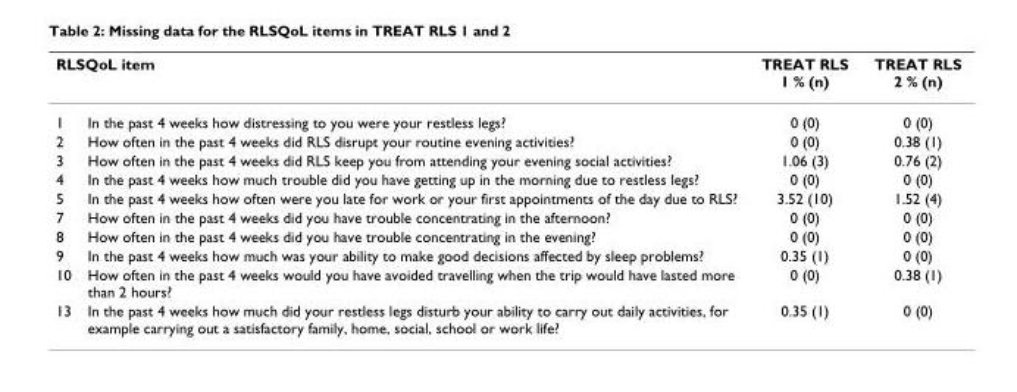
<table><thead><tr><td colspan="2">RLSQoL item</td><td rowspan="2">TREAT RLS 1 % (n) 0 (0)</td><td rowspan="2">TREAT RLS 2 % (n) 0 (0)</td></tr><tr><td>1</td><td>In the past 4 weeks how distressing to you were your restless legs?</td></tr></thead><tbody><tr><td>2</td><td>How often in the past 4 weeks did RLS disrupt your routine evening activities?</td><td>0 (0)</td><td>0.38 (1)</td></tr><tr><td>3</td><td>How often in the past 4 weeks did RLS keep you from attending your evening social activities?</td><td>1.06 (3)</td><td>0.76 (2)</td></tr><tr><td>4</td><td>In the past 4 weeks how much trouble did you have getting up in the morning due to restless legs?</td><td>0 (0)</td><td>0 (0)</td></tr><tr><td>5</td><td>In the past 4 weeks how often were you late for work or your first appointments of the day due to RLS?</td><td>3.52 (10)</td><td>1.52 (4)</td></tr><tr><td>7</td><td>How often in the past 4 weeks did you have trouble concentrating in the afternoon?</td><td>0 (0)</td><td>0 (0)</td></tr><tr><td>8</td><td>How often in the past 4 weeks did you have trouble concentrating in the evening?</td><td>0 (0)</td><td>0 (0)</td></tr><tr><td>9</td><td>In the past 4 weeks how much was your ability to make good decisions affected by sleep problems?</td><td>0.35 (1)</td><td>0 (0)</td></tr><tr><td>10</td><td>How often in the past 4 weeks would you have avoided travelling when the trip would have lasted more than 2 hours?</td><td>0 (0)</td><td>0.38 (1)</td></tr><tr><td>13</td><td>In the past 4 weeks how much did your restless legs disturb your ability to carry out daily activities, for example carrying out a satisfactory family, home, social, school or work life?</td><td>0.35 (1)</td><td>0 (0)</td></tr></tbody></table>